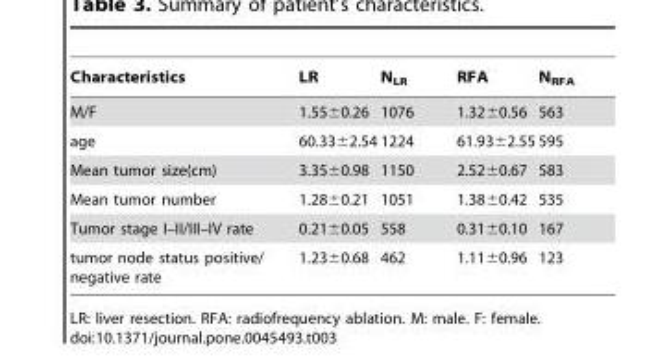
<table><thead><tr><td>Characteristics</td><td>LR</td><td>N<sub>LR</sub></td><td>RFA</td><td>N<sub>RFA</sub></td></tr></thead><tbody><tr><td>M/F</td><td>1.55±0.26</td><td>1076</td><td>1.32±0.56</td><td>563</td></tr><tr><td>age</td><td>60.33±2.54</td><td>1224</td><td>61.93±2.55</td><td>595</td></tr><tr><td>Mean tumor size(cm)</td><td>3.35±0.98</td><td>1150</td><td>2.52±0.67</td><td>583</td></tr><tr><td>Mean tumor number</td><td>1.28±0.21</td><td>1051</td><td>1.38±0.42</td><td>535</td></tr><tr><td>Tumor stage I–II/III–IV rate</td><td>0.21±0.05</td><td>558</td><td>0.31±0.10</td><td>167</td></tr><tr><td>tumor node status positive/ negative rate</td><td>1.23±0.68</td><td>462</td><td>1.11±0.96</td><td>123</td></tr></tbody></table>